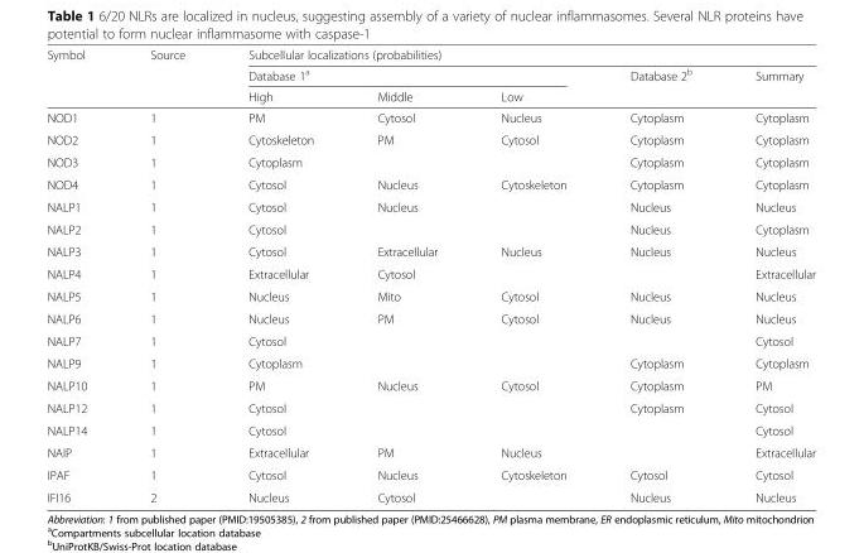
<table><thead><tr><td rowspan="3">Symbol</td><td rowspan="3">Source</td><td colspan="5">Subcellular localizations (probabilities)</td></tr><tr><td colspan="3">Database 1<sup>a</sup></td><td rowspan="2">Database 2<sup>b</sup></td><td rowspan="2">Summary</td></tr><tr><td>High</td><td>Middle</td><td>Low</td></tr></thead><tbody><tr><td>NOD1</td><td>1</td><td>PM</td><td>Cytosol</td><td>Nucleus</td><td>Cytoplasm</td><td>Cytoplasm</td></tr><tr><td>NOD2</td><td>1</td><td>Cytoskeleton</td><td>PM</td><td>Cytosol</td><td>Cytoplasm</td><td>Cytoplasm</td></tr><tr><td>NOD3</td><td>1</td><td>Cytoplasm</td><td></td><td></td><td>Cytoplasm</td><td>Cytoplasm</td></tr><tr><td>NOD4</td><td>1</td><td>Cytosol</td><td>Nucleus</td><td>Cytoskeleton</td><td>Cytoplasm</td><td>Cytoplasm</td></tr><tr><td>NALP1</td><td>1</td><td>Cytosol</td><td>Nucleus</td><td></td><td>Nucleus</td><td>Nucleus</td></tr><tr><td>NALP2</td><td>1</td><td>Cytosol</td><td></td><td></td><td>Nucleus</td><td>Cytoplasm</td></tr><tr><td>NALP3</td><td>1</td><td>Cytosol</td><td>Extracellular</td><td>Nucleus</td><td>Nucleus</td><td>Nucleus</td></tr><tr><td>NALP4</td><td>1</td><td>Extracellular</td><td>Cytosol</td><td></td><td></td><td>Extracellular</td></tr><tr><td>NALP5</td><td>1</td><td>Nucleus</td><td>Mito</td><td>Cytosol</td><td>Nucleus</td><td>Nucleus</td></tr><tr><td>NALP6</td><td>1</td><td>Nucleus</td><td>PM</td><td>Cytosol</td><td>Nucleus</td><td>Nucleus</td></tr><tr><td>NALP7</td><td>1</td><td>Cytosol</td><td></td><td></td><td></td><td>Cytosol</td></tr><tr><td>NALP9</td><td>1</td><td>Cytoplasm</td><td></td><td></td><td>Cytoplasm</td><td>Cytoplasm</td></tr><tr><td>NALP10</td><td>1</td><td>PM</td><td>Nucleus</td><td>Cytosol</td><td>Cytoplasm</td><td>PM</td></tr><tr><td>NALP12</td><td>1</td><td>Cytosol</td><td></td><td></td><td>Cytoplasm</td><td>Cytosol</td></tr><tr><td>NALP14</td><td>1</td><td>Cytosol</td><td></td><td></td><td></td><td>Cytosol</td></tr><tr><td>NAIP</td><td>1</td><td>Extracellular</td><td>PM</td><td>Nucleus</td><td></td><td>Extracellular</td></tr><tr><td>IPAF</td><td>1</td><td>Cytosol</td><td>Nucleus</td><td>Cytoskeleton</td><td>Cytosol</td><td>Cytosol</td></tr><tr><td>IFI16</td><td>2</td><td>Nucleus</td><td>Cytosol</td><td></td><td>Nucleus</td><td>Nucleus</td></tr></tbody></table>